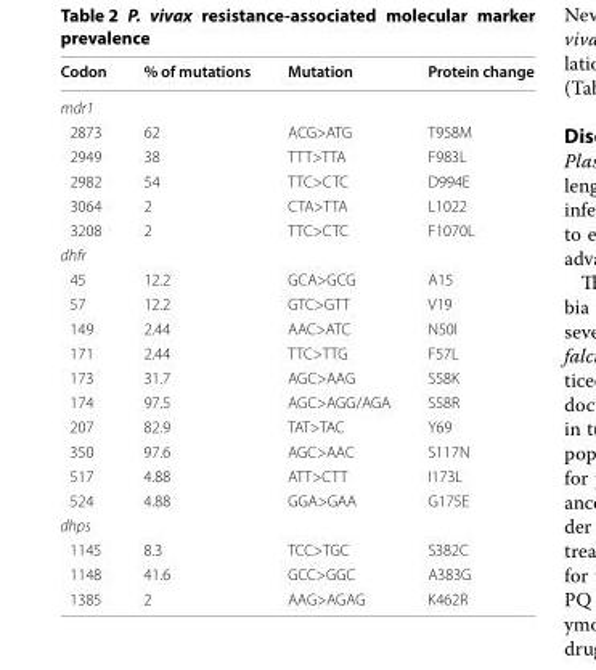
<table><thead><tr><td>Codon</td><td>% of mutations</td><td>Mutation</td><td>Protein change</td></tr></thead><tbody><tr><td colspan="4">mdr1</td></tr><tr><td>2873</td><td>62</td><td>ACG&gt;ATG</td><td>T958M</td></tr><tr><td>2949</td><td>38</td><td>TTT&gt;TTA</td><td>F983L</td></tr><tr><td>2982</td><td>54</td><td>TTC&gt;CTC</td><td>D994E</td></tr><tr><td>3064</td><td>2</td><td>CTA&gt;TTA</td><td>L1022</td></tr><tr><td>3208</td><td>2</td><td>TTC&gt;CTC</td><td>F1070L</td></tr><tr><td colspan="4">dhfr</td></tr><tr><td>45</td><td>12.2</td><td>GCA&gt;GCG</td><td>A15</td></tr><tr><td>57</td><td>12.2</td><td>GTC&gt;GTT</td><td>V19</td></tr><tr><td>149</td><td>2.44</td><td>AAC&gt;ATC</td><td>N50I</td></tr><tr><td>171</td><td>2.44</td><td>TTC&gt;TTG</td><td>F57L</td></tr><tr><td>173</td><td>31.7</td><td>AGC&gt;AAG</td><td>S58K</td></tr><tr><td>174</td><td>97.5</td><td>AGC&gt;AGG/AGA</td><td>S58R</td></tr><tr><td>207</td><td>82.9</td><td>TAT&gt;TAC</td><td>Y69</td></tr><tr><td>350</td><td>97.6</td><td>AGC&gt;AAC</td><td>S117N</td></tr><tr><td>517</td><td>4.88</td><td>ATT&gt;CTT</td><td>I173L</td></tr><tr><td>524</td><td>4.88</td><td>GGA&gt;GAA</td><td>G175E</td></tr><tr><td colspan="4">dhps</td></tr><tr><td>1145</td><td>8.3</td><td>TCC&gt;TGC</td><td>S382C</td></tr><tr><td>1148</td><td>41.6</td><td>GCC&gt;GGC</td><td>A383G</td></tr><tr><td>1385</td><td>2</td><td>AAG&gt;AGAG</td><td>K462R</td></tr></tbody></table>